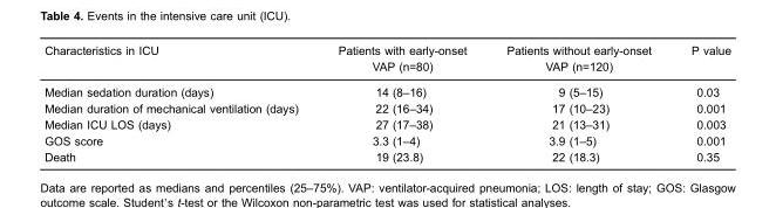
<table><thead><tr><td>Characteristics in ICU</td><td>Patients with early-onset VAP (n=80)</td><td>Patients without early-onset VAP (n=120)</td><td>P value</td></tr></thead><tbody><tr><td>Median sedation duration (days)</td><td>14 (8–16)</td><td>9 (5–15)</td><td>0.03</td></tr><tr><td>Median duration of mechanical ventilation (days)</td><td>22 (16–34)</td><td>17 (10–23)</td><td>0.001</td></tr><tr><td>Median ICU LOS (days)</td><td>27 (17–38)</td><td>21 (13–31)</td><td>0.003</td></tr><tr><td>GOS score</td><td>3.3 (1–4)</td><td>3.9 (1–5)</td><td>0.001</td></tr><tr><td>Death</td><td>19 (23.8)</td><td>22 (18.3)</td><td>0.35</td></tr></tbody></table>